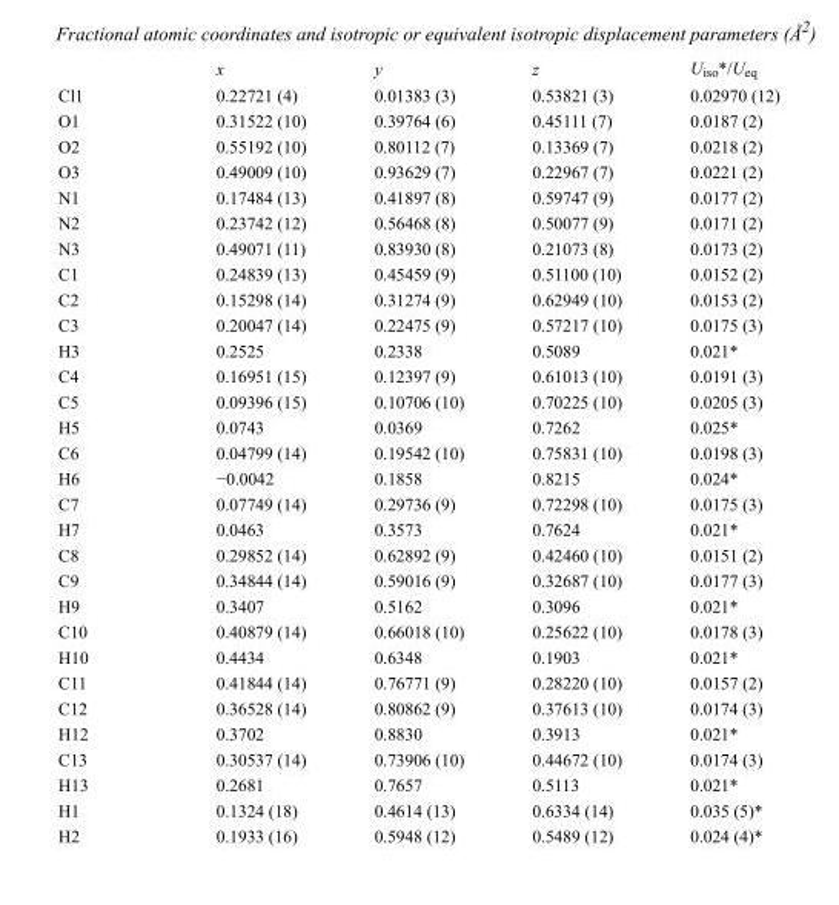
<table><thead><tr><td></td><td>x</td><td>y</td><td>z</td><td>U<sub>iso</sub>*/U<sub>eq</sub></td></tr></thead><tbody><tr><td>Cl1</td><td>0.22721 (4)</td><td>0.01383 (3)</td><td>0.53821 (3)</td><td>0.02970 (12)</td></tr><tr><td>O1</td><td>0.31522 (10)</td><td>0.39764 (6)</td><td>0.45111 (7)</td><td>0.0187 (2)</td></tr><tr><td>O2</td><td>0.55192 (10)</td><td>0.80112 (7)</td><td>0.13369 (7)</td><td>0.0218 (2)</td></tr><tr><td>O3</td><td>0.49009 (10)</td><td>0.93629 (7)</td><td>0.22967 (7)</td><td>0.0221 (2)</td></tr><tr><td>N1</td><td>0.17484 (13)</td><td>0.41897 (8)</td><td>0.59747 (9)</td><td>0.0177 (2)</td></tr><tr><td>N2</td><td>0.23742 (12)</td><td>0.56468 (8)</td><td>0.50077 (9)</td><td>0.0171 (2)</td></tr><tr><td>N3</td><td>0.49071 (11)</td><td>0.83930 (8)</td><td>0.21073 (8)</td><td>0.0173 (2)</td></tr><tr><td>C1</td><td>0.24839 (13)</td><td>0.45459 (9)</td><td>0.51100 (10)</td><td>0.0152 (2)</td></tr><tr><td>C2</td><td>0.15298 (14)</td><td>0.31274 (9)</td><td>0.62949 (10)</td><td>0.0153 (2)</td></tr><tr><td>C3</td><td>0.20047 (14)</td><td>0.22475 (9)</td><td>0.57217 (10)</td><td>0.0175 (3)</td></tr><tr><td>H3</td><td>0.2525</td><td>0.2338</td><td>0.5089</td><td>0.021*</td></tr><tr><td>C4</td><td>0.16951 (15)</td><td>0.12397 (9)</td><td>0.61013 (10)</td><td>0.0191 (3)</td></tr><tr><td>C5</td><td>0.09396 (15)</td><td>0.10706 (10)</td><td>0.70225 (10)</td><td>0.0205 (3)</td></tr><tr><td>H5</td><td>0.0743</td><td>0.0369</td><td>0.7262</td><td>0.025*</td></tr><tr><td>C6</td><td>0.04799 (14)</td><td>0.19542 (10)</td><td>0.75831 (10)</td><td>0.0198 (3)</td></tr><tr><td>H6</td><td>−0.0042</td><td>0.1858</td><td>0.8215</td><td>0.024*</td></tr><tr><td>C7</td><td>0.07749 (14)</td><td>0.29736 (9)</td><td>0.72298 (10)</td><td>0.0175 (3)</td></tr><tr><td>H7</td><td>0.0463</td><td>0.3573</td><td>0.7624</td><td>0.021*</td></tr><tr><td>C8</td><td>0.29852 (14)</td><td>0.62892 (9)</td><td>0.42460 (10)</td><td>0.0151 (2)</td></tr><tr><td>C9</td><td>0.34844 (14)</td><td>0.59016 (9)</td><td>0.32687 (10)</td><td>0.0177 (3)</td></tr><tr><td>H9</td><td>0.3407</td><td>0.5162</td><td>0.3096</td><td>0.021*</td></tr><tr><td>C10</td><td>0.40879 (14)</td><td>0.66018 (10)</td><td>0.25622 (10)</td><td>0.0178 (3)</td></tr><tr><td>H10</td><td>0.4434</td><td>0.6348</td><td>0.1903</td><td>0.021*</td></tr><tr><td>C11</td><td>0.41844 (14)</td><td>0.76771 (9)</td><td>0.28220 (10)</td><td>0.0157 (2)</td></tr><tr><td>C12</td><td>0.36528 (14)</td><td>0.80862 (9)</td><td>0.37613 (10)</td><td>0.0174 (3)</td></tr><tr><td>H12</td><td>0.3702</td><td>0.8830</td><td>0.3913</td><td>0.021*</td></tr><tr><td>C13</td><td>0.30537 (14)</td><td>0.73906 (10)</td><td>0.44672 (10)</td><td>0.0174 (3)</td></tr><tr><td>H13</td><td>0.2681</td><td>0.7657</td><td>0.5113</td><td>0.021*</td></tr><tr><td>H1</td><td>0.1324 (18)</td><td>0.4614 (13)</td><td>0.6334 (14)</td><td>0.035 (5)*</td></tr><tr><td>H2</td><td>0.1933 (16)</td><td>0.5948 (12)</td><td>0.5489 (12)</td><td>0.024 (4)*</td></tr></tbody></table>